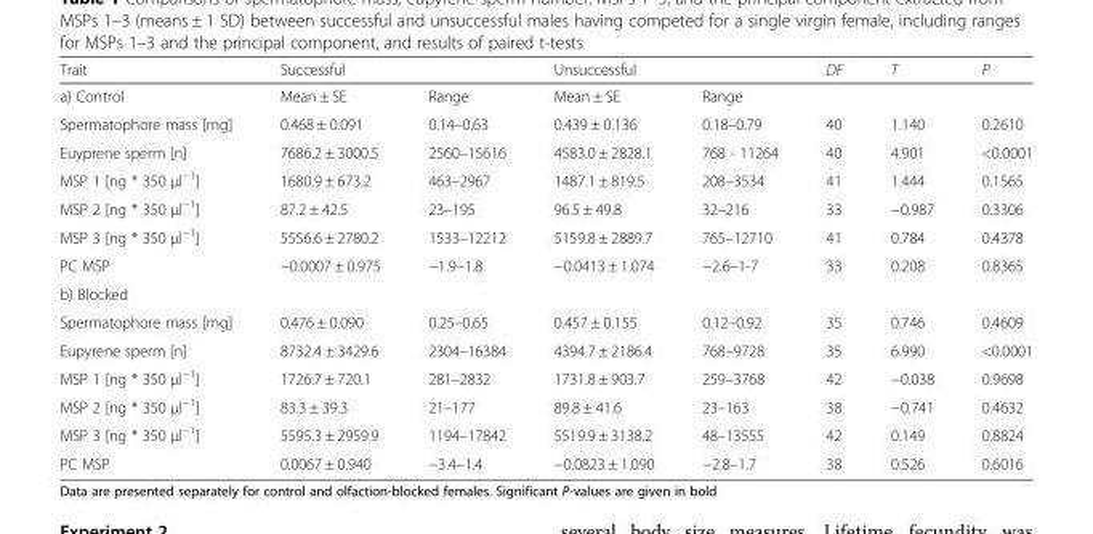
<table><thead><tr><td rowspan="2">Trait a) Control</td><td colspan="2">Successful</td><td colspan="2">Unsuccessful</td><td rowspan="2">DF</td><td rowspan="2">T</td><td rowspan="2">P</td></tr><tr><td>Mean ± SE</td><td>Range</td><td>Mean ± SE</td><td>Range</td></tr></thead><tbody><tr><td>Spermatophore mass [mg]</td><td>0.468 ± 0.091</td><td>0.14–0.63</td><td>0.439 ± 0.136</td><td>0.18–0.79</td><td>40</td><td>1.140</td><td>0.2610</td></tr><tr><td>Euyprene sperm [n]</td><td>7686.2 ± 3000.5</td><td>2560–15616</td><td>4583.0 ± 2828.1</td><td>768 - 11264</td><td>40</td><td>4.901</td><td>&lt;0.0001</td></tr><tr><td>MSP 1 [ng * 350 μl<sup>−1</sup>]</td><td>1680.9 ± 673.2</td><td>463–2967</td><td>1487.1 ± 819.5</td><td>208–3534</td><td>41</td><td>1.444</td><td>0.1565</td></tr><tr><td>MSP 2 [ng * 350 μl<sup>−1</sup>]</td><td>87.2 ± 42.5</td><td>23–195</td><td>96.5 ± 49.8</td><td>32–216</td><td>33</td><td>−0.987</td><td>0.3306</td></tr><tr><td>MSP 3 [ng * 350 μl<sup>−1</sup>]</td><td>5556.6 ± 2780.2</td><td>1533–12212</td><td>5159.8 ± 2889.7</td><td>765–12710</td><td>41</td><td>0.784</td><td>0.4378</td></tr><tr><td>PC MSP</td><td>−0.0007 ± 0.975</td><td>−1.9–1.8</td><td>−0.0413 ± 1.074</td><td>−2.6–1-7</td><td>33</td><td>0.208</td><td>0.8365</td></tr><tr><td colspan="8">b) Blocked</td></tr><tr><td>Spermatophore mass [mg]</td><td>0.476 ± 0.090</td><td>0.25–0.65</td><td>0.457 ± 0.155</td><td>0.12–0.92</td><td>35</td><td>0.746</td><td>0.4609</td></tr><tr><td>Eupyrene sperm [n]</td><td>8732.4 ± 3429.6</td><td>2304–16384</td><td>4394.7 ± 2186.4</td><td>768–9728</td><td>35</td><td>6.990</td><td>&lt;0.0001</td></tr><tr><td>MSP 1 [ng * 350 μl<sup>−1</sup>]</td><td>1726.7 ± 720.1</td><td>281–2832</td><td>1731.8 ± 903.7</td><td>259–3768</td><td>42</td><td>−0.038</td><td>0.9698</td></tr><tr><td>MSP 2 [ng * 350 μl<sup>−1</sup>]</td><td>83.3 ± 39.3</td><td>21–177</td><td>89.8 ± 41.6</td><td>23–163</td><td>38</td><td>−0.741</td><td>0.4632</td></tr><tr><td>MSP 3 [ng * 350 μl<sup>−1</sup>]</td><td>5595.3 ± 2959.9</td><td>1194–17842</td><td>5519.9 ± 3138.2</td><td>48–13555</td><td>42</td><td>0.149</td><td>0.8824</td></tr><tr><td>PC MSP</td><td>0.0067 ± 0.940</td><td>−3.4–1.4</td><td>−0.0823 ± 1.090</td><td>−2.8–1.7</td><td>38</td><td>0.526</td><td>0.6016</td></tr></tbody></table>